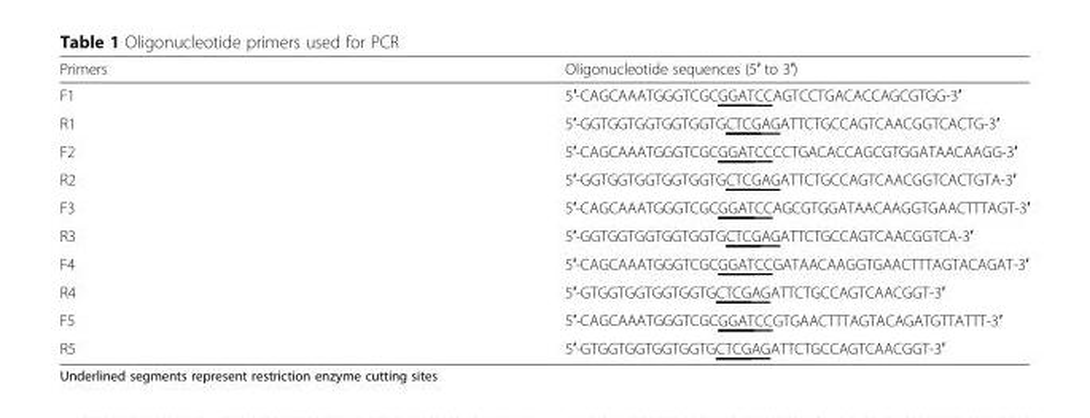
<table><thead><tr><td>Primers</td><td>Oligonucleotide sequences (5′ to 3′)</td></tr></thead><tbody><tr><td>F1</td><td>5′-CAGCAAATGGGTCGCGGATCCAGTCCTGACACCAGCGTGG-3′</td></tr><tr><td>R1</td><td>5′-GGTGGTGGTGGTGGTGCTCGAGATTCTGCCAGTCAACGGTCACTG-3′</td></tr><tr><td>F2</td><td>5′-CAGCAAATGGGTCGCGGATCCCCTGACACCAGCGTGGATAACAAGG-3′</td></tr><tr><td>R2</td><td>5′-GGTGGTGGTGGTGGTGCTCGAGATTCTGCCAGTCAACGGTCACTGTA-3′</td></tr><tr><td>F3</td><td>5′-CAGCAAATGGGTCGCGGATCCAGCGTGGATAACAAGGTGAACTTTAGT-3′</td></tr><tr><td>R3</td><td>5′-GGTGGTGGTGGTGGTGCTCGAGATTCTGCCAGTCAACGGTCA-3′</td></tr><tr><td>F4</td><td>5′-CAGCAAATGGGTCGCGGATCCGATAACAAGGTGAACTTTAGTACAGAT-3′</td></tr><tr><td>R4</td><td>5′-GTGGTGGTGGTGGTGCTCGAGATTCTGCCAGTCAACGGT-3′</td></tr><tr><td>F5</td><td>5′-CAGCAAATGGGTCGCGGATCCGTGAACTTTAGTACAGATGTTATTT-3′</td></tr><tr><td>R5</td><td>5′-GTGGTGGTGGTGGTGCTCGAGATTCTGCCAGTCAACGGT-3′</td></tr></tbody></table>